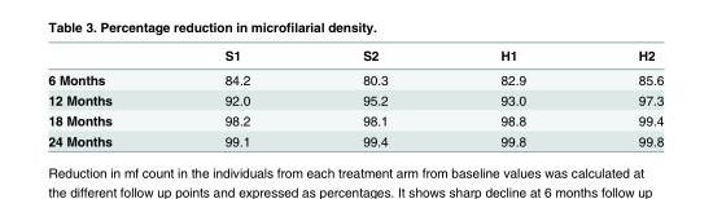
<table><thead><tr><td></td><td>S1</td><td>S2</td><td>H1</td><td>H2</td></tr></thead><tbody><tr><td>6 Months</td><td>84.2</td><td>80.3</td><td>82.9</td><td>85.6</td></tr><tr><td>12 Months</td><td>92.0</td><td>95.2</td><td>93.0</td><td>97.3</td></tr><tr><td>18 Months</td><td>98.2</td><td>98.1</td><td>98.8</td><td>99.4</td></tr><tr><td>24 Months</td><td>99.1</td><td>99.4</td><td>99.8</td><td>99.8</td></tr></tbody></table>